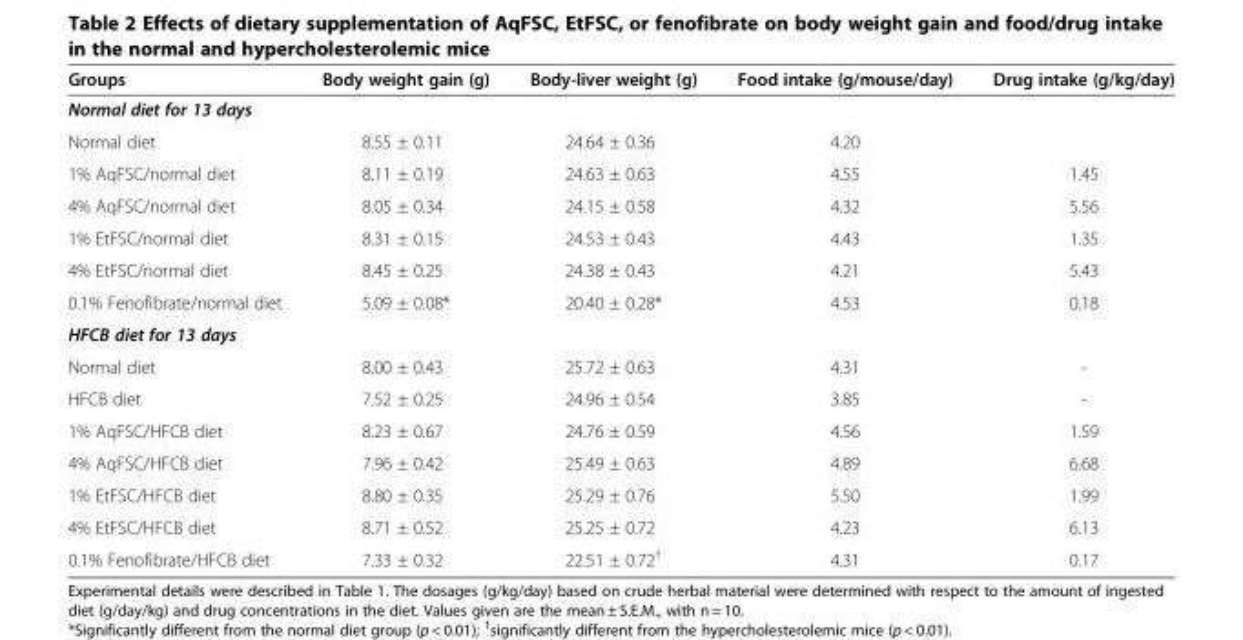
<table><thead><tr><td>Groups</td><td>Body weight gain (g)</td><td>Body-liver weight (g)</td><td>Food intake (g/mouse/day)</td><td>Drug intake (g/kg/day)</td></tr></thead><tbody><tr><td colspan="5">Normal diet for 13 days</td></tr><tr><td>Normal diet</td><td>8.55 ± 0.11</td><td>24.64 ± 0.36</td><td>4.20</td><td></td></tr><tr><td>1% AqFSC/normal diet</td><td>8.11 ± 0.19</td><td>24.63 ± 0.63</td><td>4.55</td><td>1.45</td></tr><tr><td>4% AqFSC/normal diet</td><td>8.05 ± 0.34</td><td>24.15 ± 0.58</td><td>4.32</td><td>5.56</td></tr><tr><td>1% EtFSC/normal diet</td><td>8.31 ± 0.15</td><td>24.53 ± 0.43</td><td>4.43</td><td>1.35</td></tr><tr><td>4% EtFSC/normal diet</td><td>8.45 ± 0.25</td><td>24.38 ± 0.43</td><td>4.21</td><td>5.43</td></tr><tr><td>0.1% Fenofibrate/normal diet</td><td>5.09 ± 0.08*</td><td>20.40 ± 0.28*</td><td>4.53</td><td>0.18</td></tr><tr><td colspan="5">HFCB diet for 13 days</td></tr><tr><td>Normal diet</td><td>8.00 ± 0.43</td><td>25.72 ± 0.63</td><td>4.31</td><td>-</td></tr><tr><td>HFCB diet</td><td>7.52 ± 0.25</td><td>24.96 ± 0.54</td><td>3.85</td><td>-</td></tr><tr><td>1% AqFSC/HFCB diet</td><td>8.23 ± 0.67</td><td>24.76 ± 0.59</td><td>4.56</td><td>1.59</td></tr><tr><td>4% AqFSC/HFCB diet</td><td>7.96 ± 0.42</td><td>25.49 ± 0.63</td><td>4.89</td><td>6.68</td></tr><tr><td>1% EtFSC/HFCB diet</td><td>8.80 ± 0.35</td><td>25.29 ± 0.76</td><td>5.50</td><td>1.99</td></tr><tr><td>4% EtFSC/HFCB diet</td><td>8.71 ± 0.52</td><td>25.25 ± 0.72</td><td>4.23</td><td>6.13</td></tr><tr><td>0.1% Fenofibrate/HFCB diet</td><td>7.33 ± 0.32</td><td>22.51 ± 0.72<sup>†</sup></td><td>4.31</td><td>0.17</td></tr></tbody></table>